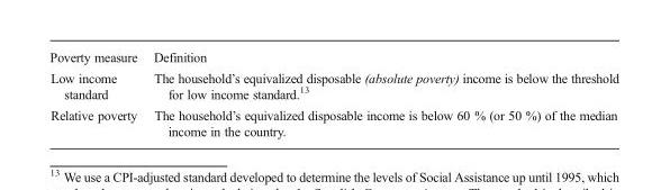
<table><thead><tr><td>Poverty measure</td><td>Definition</td></tr></thead><tbody><tr><td>Low income standard</td><td>The household’s equivalized disposable (absolute poverty) income is below the threshold for low income standard.<sup>13</sup></td></tr><tr><td>Relative poverty</td><td>The household’s equivalized disposable income is below 60 % (or 50 %) of the median income in the country.</td></tr></tbody></table>